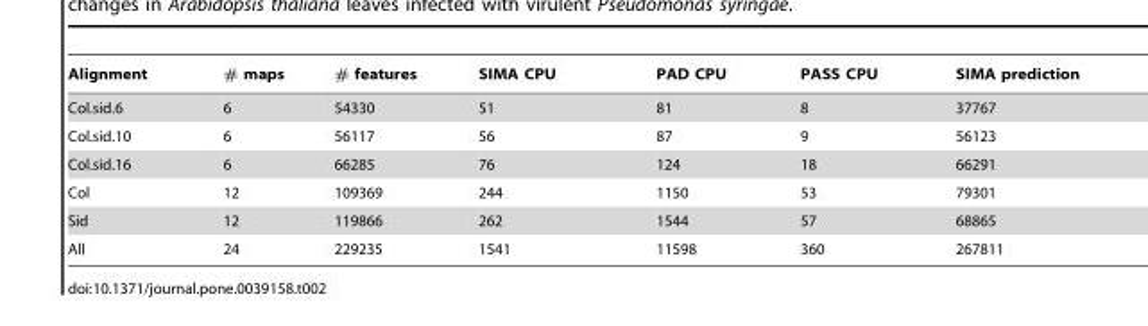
<table><thead><tr><td>Alignment</td><td># maps</td><td># features</td><td>SIMA CPU</td><td>PAD CPU</td><td>PASS CPU</td><td>SIMA prediction</td></tr></thead><tbody><tr><td>Col.sid.6</td><td>6</td><td>54330</td><td>51</td><td>81</td><td>8</td><td>37767</td></tr><tr><td>Col.sid.10</td><td>6</td><td>56117</td><td>56</td><td>87</td><td>9</td><td>56123</td></tr><tr><td>Col.sid.16</td><td>6</td><td>66285</td><td>76</td><td>124</td><td>18</td><td>66291</td></tr><tr><td>Col</td><td>12</td><td>109369</td><td>244</td><td>1150</td><td>53</td><td>79301</td></tr><tr><td>Sid</td><td>12</td><td>119866</td><td>262</td><td>1544</td><td>57</td><td>68865</td></tr><tr><td>All</td><td>24</td><td>229235</td><td>1541</td><td>11598</td><td>360</td><td>267811</td></tr></tbody></table>